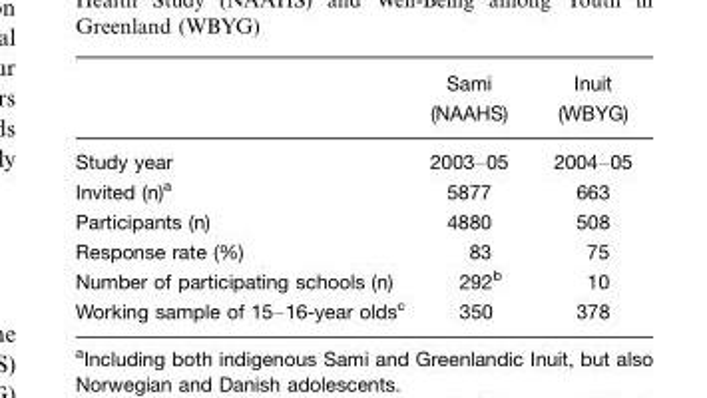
<table><thead><tr><td></td><td>Sami (NAAHS)</td><td>Inuit (WBYG)</td></tr></thead><tbody><tr><td>Study year</td><td>2003–05</td><td>2004–05</td></tr><tr><td>Invited (n)<sup>a</sup></td><td>5877</td><td>663</td></tr><tr><td>Participants (n)</td><td>4880</td><td>508</td></tr><tr><td>Response rate (%)</td><td>83</td><td>75</td></tr><tr><td>Number of participating schools (n)</td><td>292<sup>b</sup></td><td>10</td></tr><tr><td>Working sample of 15–16-year olds<sup>c</sup></td><td>350</td><td>378</td></tr></tbody></table>